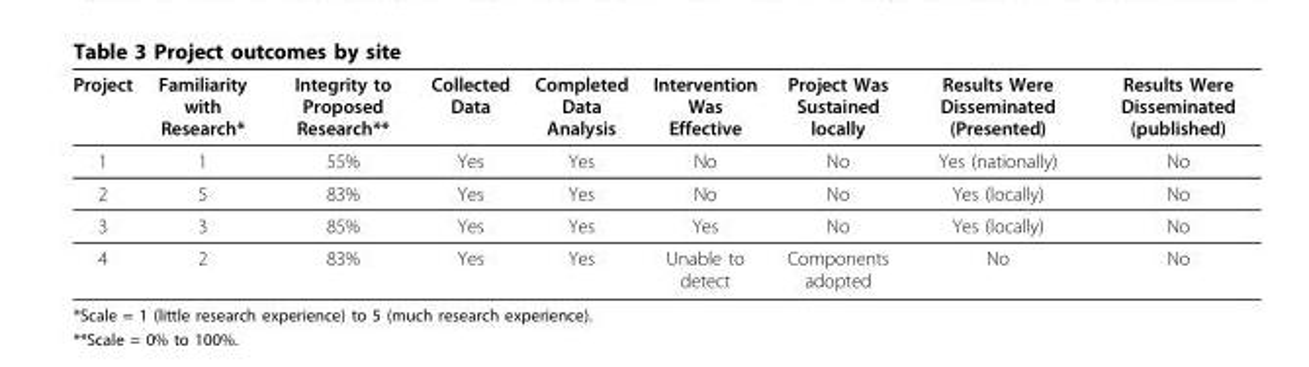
<table><thead><tr><td>Project</td><td>Familiarity with Research*</td><td>Integrity to Proposed Research**</td><td>Collected Data</td><td>Completed Data Analysis</td><td>Intervention Was Effective</td><td>Project Was Sustained locally</td><td>Results Were Disseminated (Presented)</td><td>Results Were Disseminated (published)</td></tr></thead><tbody><tr><td>1</td><td>1</td><td>55%</td><td>Yes</td><td>Yes</td><td>No</td><td>No</td><td>Yes (nationally)</td><td>No</td></tr><tr><td>2</td><td>5</td><td>83%</td><td>Yes</td><td>Yes</td><td>No</td><td>No</td><td>Yes (locally)</td><td>No</td></tr><tr><td>3</td><td>3</td><td>85%</td><td>Yes</td><td>Yes</td><td>Yes</td><td>No</td><td>Yes (locally)</td><td>No</td></tr><tr><td>4</td><td>2</td><td>83%</td><td>Yes</td><td>Yes</td><td>Unable to detect</td><td>Components adopted</td><td>No</td><td>No</td></tr></tbody></table>